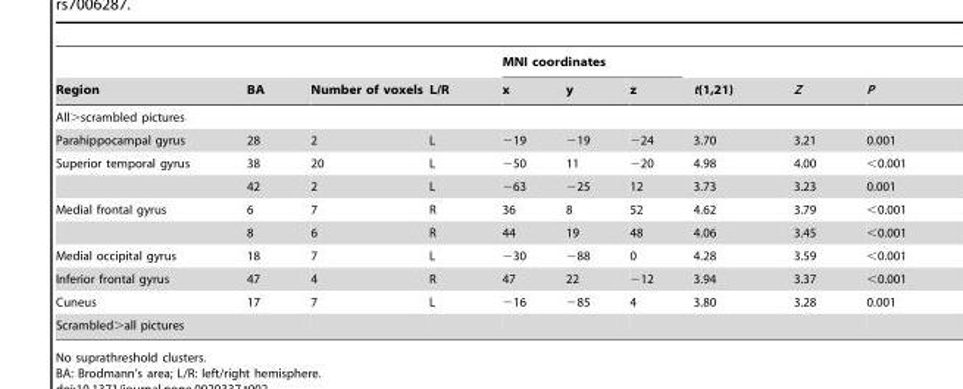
<table><thead><tr><td rowspan="2">Region</td><td rowspan="2">BA</td><td rowspan="2">Number of voxels</td><td rowspan="2">L/R</td><td colspan="3">MNI coordinates</td><td rowspan="2">t(1,21)</td><td rowspan="2">Z</td><td rowspan="2">P</td></tr><tr><td>x</td><td>y</td><td>z</td></tr></thead><tbody><tr><td colspan="10">All&gt;scrambled pictures</td></tr><tr><td>Parahippocampal gyrus</td><td>28</td><td>2</td><td>L</td><td>−19</td><td>−19</td><td>−24</td><td>3.70</td><td>3.21</td><td>0.001</td></tr><tr><td rowspan="2">Superior temporal gyrus</td><td>38</td><td>20</td><td>L</td><td>−50</td><td>11</td><td>−20</td><td>4.98</td><td>4.00</td><td>&lt;0.001</td></tr><tr><td>42</td><td>2</td><td>L</td><td>−63</td><td>−25</td><td>12</td><td>3.73</td><td>3.23</td><td>0.001</td></tr><tr><td rowspan="2">Medial frontal gyrus</td><td>6</td><td>7</td><td>R</td><td>36</td><td>8</td><td>52</td><td>4.62</td><td>3.79</td><td>&lt;0.001</td></tr><tr><td>8</td><td>6</td><td>R</td><td>44</td><td>19</td><td>48</td><td>4.06</td><td>3.45</td><td>&lt;0.001</td></tr><tr><td>Medial occipital gyrus</td><td>18</td><td>7</td><td>L</td><td>−30</td><td>−88</td><td>0</td><td>4.28</td><td>3.59</td><td>&lt;0.001</td></tr><tr><td>Inferior frontal gyrus</td><td>47</td><td>4</td><td>R</td><td>47</td><td>22</td><td>−12</td><td>3.94</td><td>3.37</td><td>&lt;0.001</td></tr><tr><td>Cuneus</td><td>17</td><td>7</td><td>L</td><td>−16</td><td>−85</td><td>4</td><td>3.80</td><td>3.28</td><td>0.001</td></tr><tr><td>Scrambled&gt;all pictures</td><td></td><td></td><td></td><td></td><td></td><td></td><td></td><td></td><td></td></tr></tbody></table>